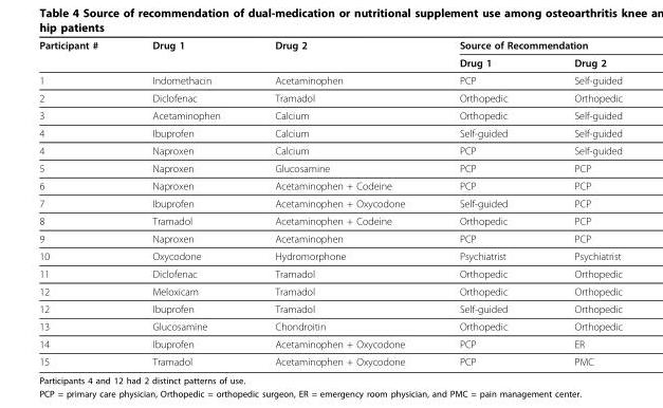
<table><thead><tr><td rowspan="2">Participant #</td><td rowspan="2">Drug 1</td><td rowspan="2">Drug 2</td><td colspan="2">Source of Recommendation</td></tr><tr><td>Drug 1</td><td>Drug 2</td></tr></thead><tbody><tr><td>1</td><td>Indomethacin</td><td>Acetaminophen</td><td>PCP</td><td>Self-guided</td></tr><tr><td>2</td><td>Diclofenac</td><td>Tramadol</td><td>Orthopedic</td><td>Orthopedic</td></tr><tr><td>3</td><td>Acetaminophen</td><td>Calcium</td><td>Orthopedic</td><td>Self-guided</td></tr><tr><td>4</td><td>Ibuprofen</td><td>Calcium</td><td>Self-guided</td><td>Self-guided</td></tr><tr><td>4</td><td>Naproxen</td><td>Calcium</td><td>PCP</td><td>Self-guided</td></tr><tr><td>5</td><td>Naproxen</td><td>Glucosamine</td><td>PCP</td><td>PCP</td></tr><tr><td>6</td><td>Naproxen</td><td>Acetaminophen + Codeine</td><td>PCP</td><td>PCP</td></tr><tr><td>7</td><td>Ibuprofen</td><td>Acetaminophen + Oxycodone</td><td>Self-guided</td><td>PCP</td></tr><tr><td>8</td><td>Tramadol</td><td>Acetaminophen + Codeine</td><td>Orthopedic</td><td>PCP</td></tr><tr><td>9</td><td>Naproxen</td><td>Acetaminophen</td><td>PCP</td><td>PCP</td></tr><tr><td>10</td><td>Oxycodone</td><td>Hydromorphone</td><td>Psychiatrist</td><td>Psychiatrist</td></tr><tr><td>11</td><td>Diclofenac</td><td>Tramadol</td><td>Orthopedic</td><td>Orthopedic</td></tr><tr><td>12</td><td>Meloxicam</td><td>Tramadol</td><td>Orthopedic</td><td>Orthopedic</td></tr><tr><td>12</td><td>Ibuprofen</td><td>Tramadol</td><td>Self-guided</td><td>Orthopedic</td></tr><tr><td>13</td><td>Glucosamine</td><td>Chondroitin</td><td>Orthopedic</td><td>Orthopedic</td></tr><tr><td>14</td><td>Ibuprofen</td><td>Acetaminophen + Oxycodone</td><td>PCP</td><td>ER</td></tr><tr><td>15</td><td>Tramadol</td><td>Acetaminophen + Oxycodone</td><td>PCP</td><td>PMC</td></tr></tbody></table>